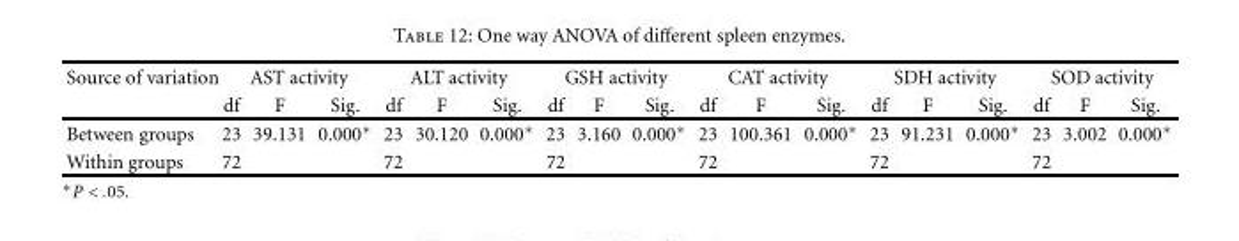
<table><thead><tr><td rowspan="2">Source of variation</td><td colspan="3">AST activity</td><td colspan="3">ALT activity</td><td colspan="3">GSH activity</td><td colspan="3">CAT activity</td><td colspan="3">SDH activity</td><td colspan="3">SOD activity</td></tr><tr><td>df</td><td>F</td><td>Sig.</td><td>df</td><td>F</td><td>Sig.</td><td>df</td><td>F</td><td>Sig.</td><td>df</td><td>F</td><td>Sig.</td><td>df</td><td>F</td><td>Sig.</td><td>df</td><td>F</td><td>Sig.</td></tr></thead><tbody><tr><td>Between groups</td><td>23</td><td>39.131</td><td>0.000∗</td><td>23</td><td>30.120</td><td>0.000∗</td><td>23</td><td>3.160</td><td>0.000∗</td><td>23</td><td>100.361</td><td>0.000∗</td><td>23</td><td>91.231</td><td>0.000∗</td><td>23</td><td>3.002</td><td>0.000∗</td></tr><tr><td>Within groups</td><td>72</td><td></td><td></td><td>72</td><td></td><td></td><td>72</td><td></td><td></td><td>72</td><td></td><td></td><td>72</td><td></td><td></td><td>72</td><td></td><td></td></tr></tbody></table>